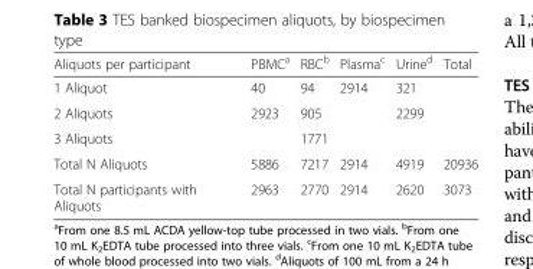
<table><thead><tr><td>Aliquots per participant</td><td>PBMC<sup>a</sup></td><td>RBC<sup>b</sup></td><td>Plasma<sup>c</sup></td><td>Urine<sup>d</sup></td><td>Total</td></tr></thead><tbody><tr><td>1 Aliquot</td><td>40</td><td>94</td><td>2914</td><td>321</td><td></td></tr><tr><td>2 Aliquots</td><td>2923</td><td>905</td><td></td><td>2299</td><td></td></tr><tr><td>3 Aliquots</td><td></td><td>1771</td><td></td><td></td><td></td></tr><tr><td>Total N Aliquots</td><td>5886</td><td>7217</td><td>2914</td><td>4919</td><td>20936</td></tr><tr><td>Total N participants with Aliquots</td><td>2963</td><td>2770</td><td>2914</td><td>2620</td><td>3073</td></tr></tbody></table>